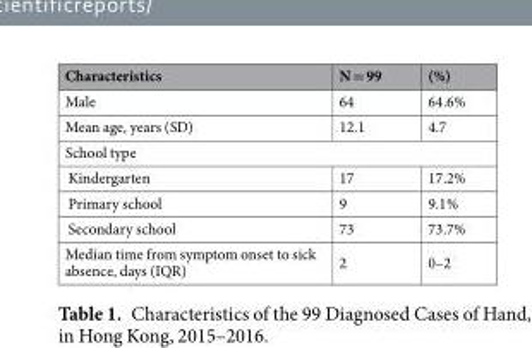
<table><thead><tr><td>Characteristics</td><td>N = 99</td><td>(%)</td></tr></thead><tbody><tr><td>Male</td><td>64</td><td>64.6%</td></tr><tr><td>Mean age, years (SD)</td><td>12.1</td><td>4.7</td></tr><tr><td colspan="3">School type</td></tr><tr><td>Kindergarten</td><td>17</td><td>17.2%</td></tr><tr><td>Primary school</td><td>9</td><td>9.1%</td></tr><tr><td>Secondary school</td><td>73</td><td>73.7%</td></tr><tr><td>Median time from symptom onset to sick absence, days (IQR)</td><td>2</td><td>0–2</td></tr></tbody></table>